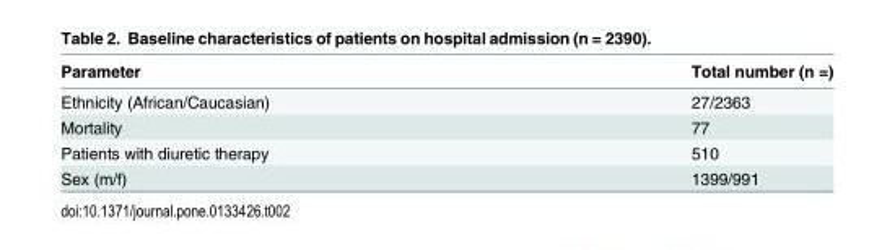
<table><thead><tr><td>Parameter</td><td>Total number (n =)</td></tr></thead><tbody><tr><td>Ethnicity (African/Caucasian)</td><td>27/2363</td></tr><tr><td>Mortality</td><td>77</td></tr><tr><td>Patients with diuretic therapy</td><td>510</td></tr><tr><td>Sex (m/f)</td><td>1399/991</td></tr></tbody></table>